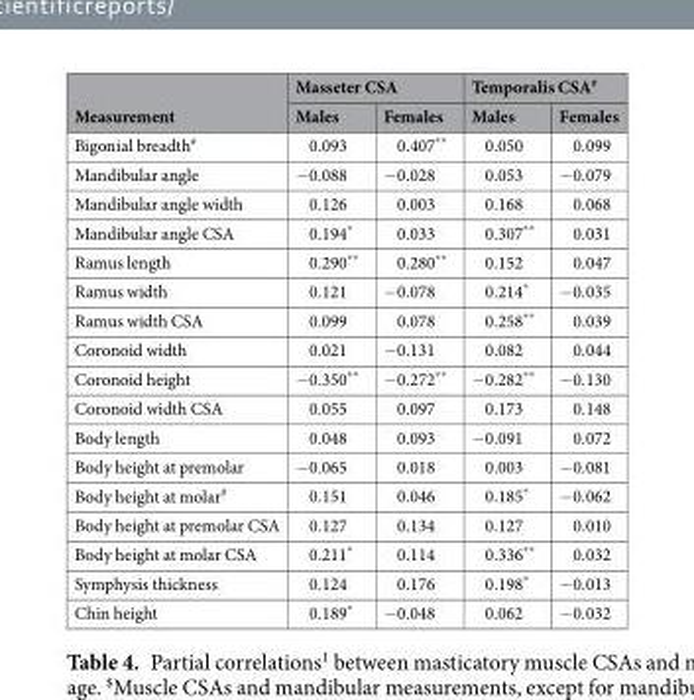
<table><thead><tr><td rowspan="2">Measurement</td><td colspan="2">Masseter CSA</td><td colspan="2">Temporalis CSA<sup>#</sup></td></tr><tr><td>Males</td><td>Females</td><td>Males</td><td>Females</td></tr></thead><tbody><tr><td>Bigonial breadth<sup>#</sup></td><td>0.093</td><td>0.407**</td><td>0.050</td><td>0.099</td></tr><tr><td>Mandibular angle</td><td>−0.088</td><td>−0.028</td><td>0.053</td><td>−0.079</td></tr><tr><td>Mandibular angle width</td><td>0.126</td><td>0.003</td><td>0.168</td><td>0.068</td></tr><tr><td>Mandibular angle CSA</td><td>0.194*</td><td>0.033</td><td>0.307**</td><td>0.031</td></tr><tr><td>Ramus length</td><td>0.290**</td><td>0.280**</td><td>0.152</td><td>0.047</td></tr><tr><td>Ramus width</td><td>0.121</td><td>−0.078</td><td>0.214*</td><td>−0.035</td></tr><tr><td>Ramus width CSA</td><td>0.099</td><td>0.078</td><td>0.258**</td><td>0.039</td></tr><tr><td>Coronoid width</td><td>0.021</td><td>−0.131</td><td>0.082</td><td>0.044</td></tr><tr><td>Coronoid height</td><td>−0.350**</td><td>−0.272**</td><td>−0.282**</td><td>−0.130</td></tr><tr><td>Coronoid width CSA</td><td>0.055</td><td>0.097</td><td>0.173</td><td>0.148</td></tr><tr><td>Body length</td><td>0.048</td><td>0.093</td><td>−0.091</td><td>0.072</td></tr><tr><td>Body height at premolar</td><td>−0.065</td><td>0.018</td><td>0.003</td><td>−0.081</td></tr><tr><td>Body height at molar<sup>#</sup></td><td>0.151</td><td>0.046</td><td>0.185*</td><td>−0.062</td></tr><tr><td>Body height at premolar CSA</td><td>0.127</td><td>0.134</td><td>0.127</td><td>0.010</td></tr><tr><td>Body height at molar CSA</td><td>0.211*</td><td>0.114</td><td>0.336**</td><td>0.032</td></tr><tr><td>Symphysis thickness</td><td>0.124</td><td>0.176</td><td>0.198*</td><td>−0.013</td></tr><tr><td>Chin height</td><td>0.189*</td><td>−0.048</td><td>0.062</td><td>−0.032</td></tr></tbody></table>